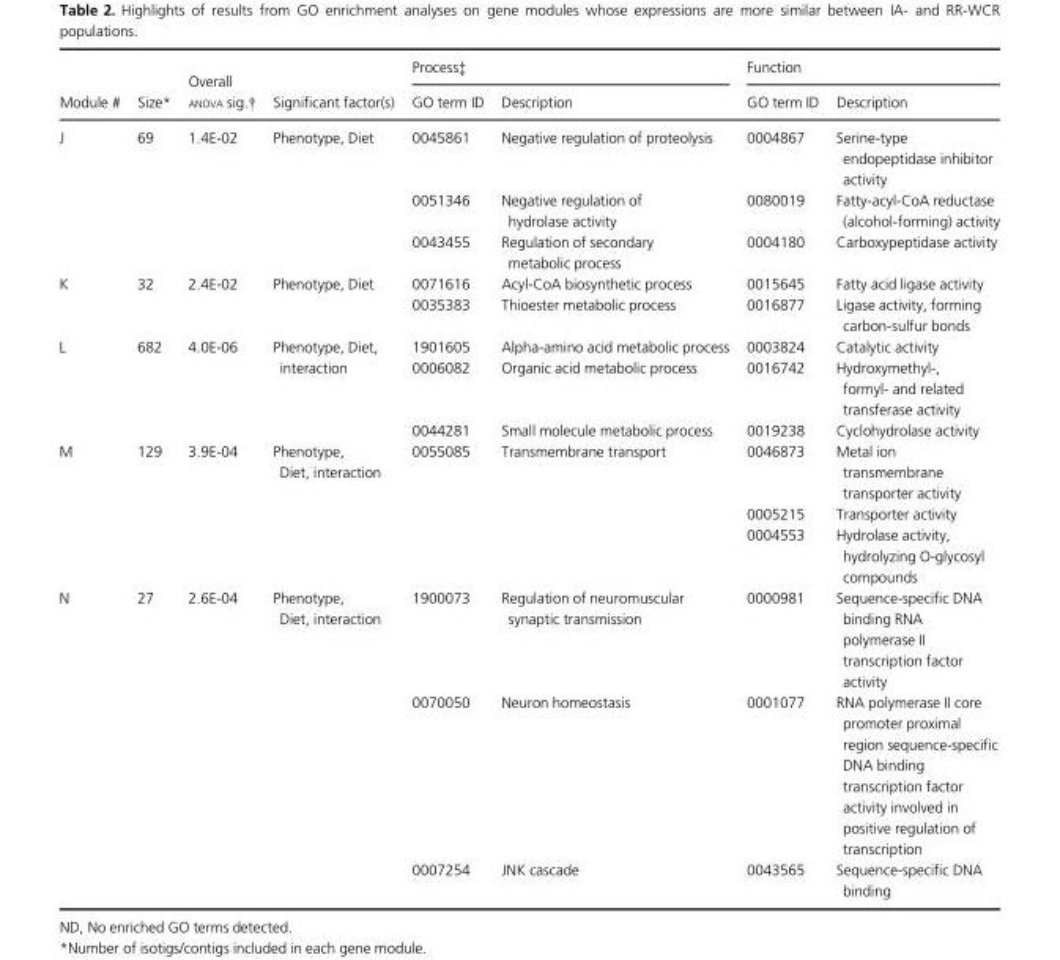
<table><thead><tr><td rowspan="2">Module #</td><td rowspan="2">Size*</td><td rowspan="2">Overall ANOVA sig.†</td><td rowspan="2">Significant factor(s)</td><td colspan="2">Process‡</td><td colspan="2">Function</td></tr><tr><td>GO term ID</td><td>Description</td><td>GO term ID</td><td>Description</td></tr></thead><tbody><tr><td rowspan="3">J</td><td rowspan="3">69</td><td rowspan="3">1.4E-02</td><td rowspan="3">Phenotype, Diet</td><td>0045861</td><td>Negative regulation of proteolysis</td><td>0004867</td><td>Serine-type endopeptidase inhibitor activity</td></tr><tr><td>0051346</td><td>Negative regulation of hydrolase activity</td><td>0080019</td><td>Fatty-acyl-CoA reductase (alcohol-forming) activity</td></tr><tr><td>0043455</td><td>Regulation of secondary metabolic process</td><td>0004180</td><td>Carboxypeptidase activity</td></tr><tr><td rowspan="2">K</td><td rowspan="2">32</td><td rowspan="2">2.4E-02</td><td rowspan="2">Phenotype, Diet</td><td>0071616</td><td>Acyl-CoA biosynthetic process</td><td>0015645</td><td>Fatty acid ligase activity</td></tr><tr><td>0035383</td><td>Thioester metabolic process</td><td>0016877</td><td>Ligase activity, forming carbon-sulfur bonds</td></tr><tr><td rowspan="3">L</td><td rowspan="3">682</td><td rowspan="3">4.0E-06</td><td rowspan="3">Phenotype, Diet, interaction</td><td>1901605</td><td>Alpha-amino acid metabolic process</td><td>0003824</td><td>Catalytic activity</td></tr><tr><td>0006082</td><td>Organic acid metabolic process</td><td>0016742</td><td>Hydroxymethyl-, formyl- and related transferase activity</td></tr><tr><td>0044281</td><td>Small molecule metabolic process</td><td>0019238</td><td>Cyclohydrolase activity</td></tr><tr><td rowspan="3">M</td><td rowspan="3">129</td><td rowspan="3">3.9E-04</td><td rowspan="3">Phenotype, Diet, interaction</td><td rowspan="3">0055085</td><td rowspan="3">Transmembrane transport</td><td>0046873</td><td>Metal ion transmembrane transporter activity</td></tr><tr><td>0005215</td><td>Transporter activity</td></tr><tr><td>0004553</td><td>Hydrolase activity, hydrolyzing O-glycosyl compounds</td></tr><tr><td rowspan="3">N</td><td rowspan="3">27</td><td rowspan="3">2.6E-04</td><td rowspan="3">Phenotype, Diet, interaction</td><td>1900073</td><td>Regulation of neuromuscular synaptic transmission</td><td>0000981</td><td>Sequence-specific DNA binding RNA polymerase II transcription factor activity</td></tr><tr><td>0070050</td><td>Neuron homeostasis</td><td>0001077</td><td>RNA polymerase II core promoter proximal region sequence-specific DNA binding transcription factor activity involved in positive regulation of transcription</td></tr><tr><td>0007254</td><td>JNK cascade</td><td>0043565</td><td>Sequence-specific DNA binding</td></tr></tbody></table>